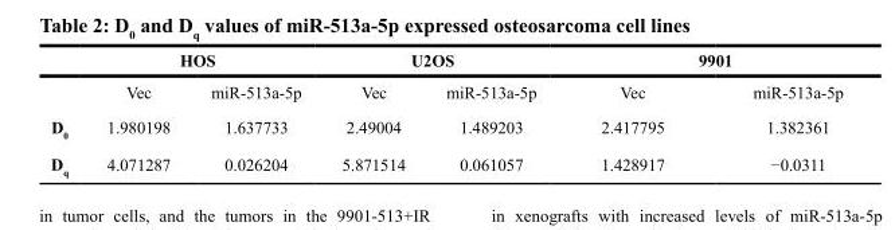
<table><thead><tr><td rowspan="2"></td><td colspan="2">HOS</td><td colspan="2">U2OS</td><td colspan="2">9901</td></tr><tr><td>Vec</td><td>miR-513a-5p</td><td>Vec</td><td>miR-513a-5p</td><td>Vec</td><td>miR-513a-5p</td></tr></thead><tbody><tr><td>D<sub>0</sub></td><td>1.980198</td><td>1.637733</td><td>2.49004</td><td>1.489203</td><td>2.417795</td><td>1.382361</td></tr><tr><td>D<sub>q</sub></td><td>4.071287</td><td>0.026204</td><td>5.871514</td><td>0.061057</td><td>1.428917</td><td>−0.0311</td></tr></tbody></table>